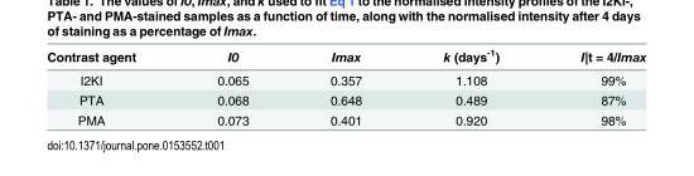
<table><thead><tr><td>Contrast agent</td><td>I0</td><td>Imax</td><td>k (days<sup>-1</sup>)</td><td>I|t = 4/Imax</td></tr></thead><tbody><tr><td>I2KI</td><td>0.065</td><td>0.357</td><td>1.108</td><td>99%</td></tr><tr><td>PTA</td><td>0.068</td><td>0.648</td><td>0.489</td><td>87%</td></tr><tr><td>PMA</td><td>0.073</td><td>0.401</td><td>0.920</td><td>98%</td></tr></tbody></table>